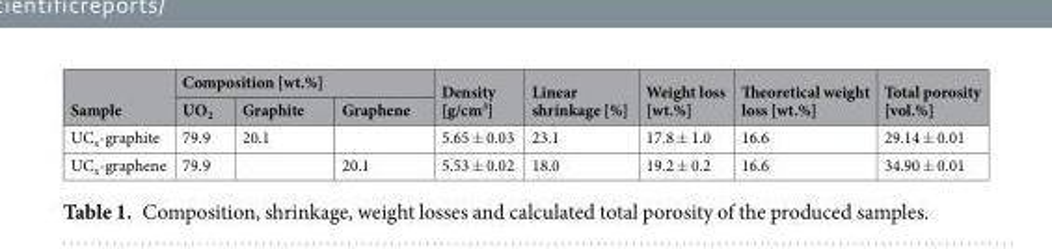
<table><thead><tr><td rowspan="2">Sample</td><td colspan="3">Composition [wt.%]</td><td rowspan="2">Density [g/cm<sup>3</sup>]</td><td rowspan="2">Linear shrinkage [%]</td><td rowspan="2">Weight loss [wt.%]</td><td rowspan="2">Theoretical weight loss [wt.%]</td><td rowspan="2">Total porosity [vol.%]</td></tr><tr><td>UO<sub>2</sub></td><td>Graphite</td><td>Graphene</td></tr></thead><tbody><tr><td>UC<sub>x</sub>-graphite</td><td>79.9</td><td>20.1</td><td></td><td>5.65 ± 0.03</td><td>23.1</td><td>17.8 ± 1.0</td><td>16.6</td><td>29.14 ± 0.01</td></tr><tr><td>UC<sub>x</sub>-graphene</td><td>79.9</td><td></td><td>20.1</td><td>5.53 ± 0.02</td><td>18.0</td><td>19.2 ± 0.2</td><td>16.6</td><td>34.90 ± 0.01</td></tr></tbody></table>